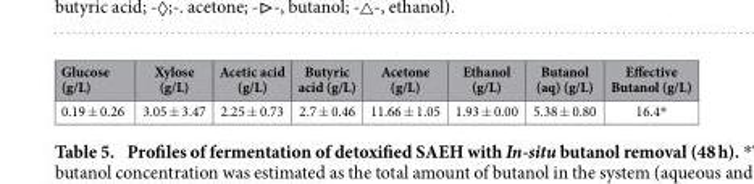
<table><thead><tr><td>Glucose (g/L)</td><td>Xylose (g/L)</td><td>Acetic acid (g/L)</td><td>Butyric acid (g/L)</td><td>Acetone (g/L)</td><td>Ethanol (g/L)</td><td>Butanol (aq) (g/L)</td><td>Effective Butanol (g/L)</td></tr></thead><tbody><tr><td>0.19 ± 0.26</td><td>3.05 ± 3.47</td><td>2.25 ± 0.73</td><td>2.7 ± 0.46</td><td>11.66 ± 1.05</td><td>1.93 ± 0.00</td><td>5.38 ± 0.80</td><td>16.4*</td></tr></tbody></table>